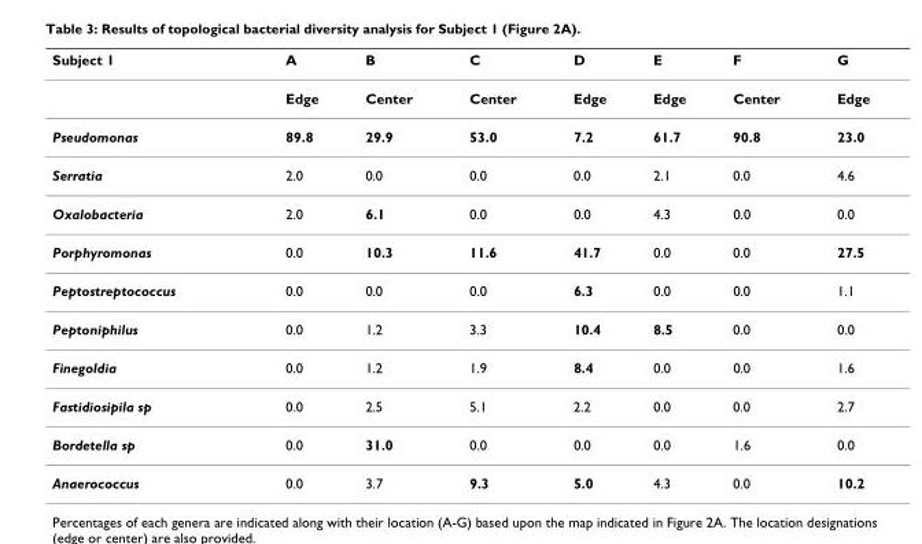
<table><thead><tr><td>Subject 1</td><td>A</td><td>B</td><td>C</td><td>D</td><td>E</td><td>F</td><td>G</td></tr></thead><tbody><tr><td></td><td>Edge</td><td>Center</td><td>Center</td><td>Edge</td><td>Edge</td><td>Center</td><td>Edge</td></tr><tr><td>Pseudomonas</td><td>89.8</td><td>29.9</td><td>53.0</td><td>7.2</td><td>61.7</td><td>90.8</td><td>23.0</td></tr><tr><td>Serratia</td><td>2.0</td><td>0.0</td><td>0.0</td><td>0.0</td><td>2.1</td><td>0.0</td><td>4.6</td></tr><tr><td>Oxalobacteria</td><td>2.0</td><td>6.1</td><td>0.0</td><td>0.0</td><td>4.3</td><td>0.0</td><td>0.0</td></tr><tr><td>Porphyromonas</td><td>0.0</td><td>10.3</td><td>11.6</td><td>41.7</td><td>0.0</td><td>0.0</td><td>27.5</td></tr><tr><td>Peptostreptococcus</td><td>0.0</td><td>0.0</td><td>0.0</td><td>6.3</td><td>0.0</td><td>0.0</td><td>1.1</td></tr><tr><td>Peptoniphilus</td><td>0.0</td><td>1.2</td><td>3.3</td><td>10.4</td><td>8.5</td><td>0.0</td><td>0.0</td></tr><tr><td>Finegoldia</td><td>0.0</td><td>1.2</td><td>1.9</td><td>8.4</td><td>0.0</td><td>0.0</td><td>1.6</td></tr><tr><td>Fastidiosipila sp</td><td>0.0</td><td>2.5</td><td>5.1</td><td>2.2</td><td>0.0</td><td>0.0</td><td>2.7</td></tr><tr><td>Bordetella sp</td><td>0.0</td><td>31.0</td><td>0.0</td><td>0.0</td><td>0.0</td><td>1.6</td><td>0.0</td></tr><tr><td>Anaerococcus</td><td>0.0</td><td>3.7</td><td>9.3</td><td>5.0</td><td>4.3</td><td>0.0</td><td>10.2</td></tr></tbody></table>